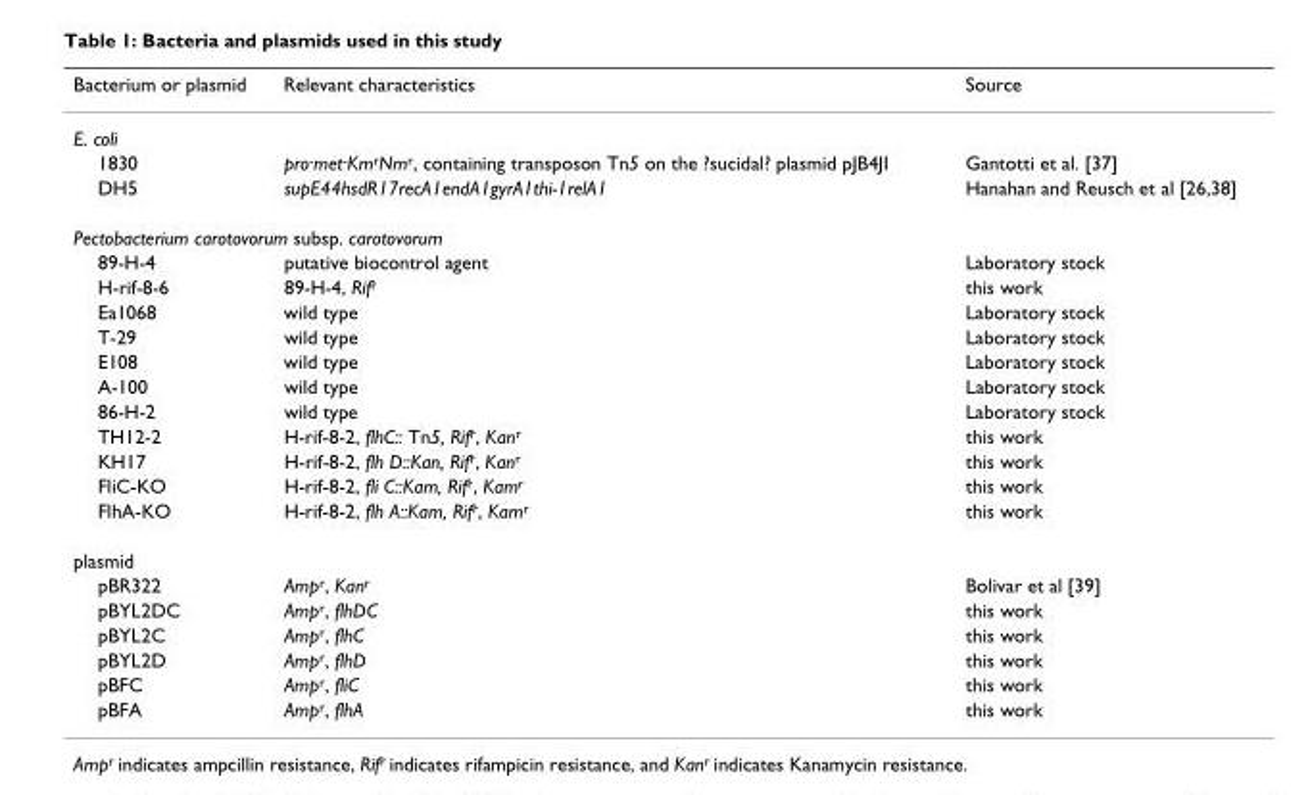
<table><thead><tr><td>Bacterium or plasmid</td><td>Relevant characteristics</td><td>Source</td></tr></thead><tbody><tr><td colspan="3">E. coli</td></tr><tr><td>1830</td><td>pro<sup>-</sup>met<sup>-</sup>Km<sup>r</sup>Nm<sup>r</sup>, containing transposon Tn5 on the ?sucidal? plasmid pJB4JI</td><td>Gantotti et al. [37]</td></tr><tr><td>DH5</td><td>supE44hsdR17recA1endA1gyrA1thi-1relA1</td><td>Hanahan and Reusch et al [26,38]</td></tr><tr><td colspan="3">Pectobacterium carotovorum subsp. carotovorum</td></tr><tr><td>89-H-4</td><td>putative biocontrol agent</td><td>Laboratory stock</td></tr><tr><td>H-rif-8-6</td><td>89-H-4, Rif<sup>r</sup></td><td>this work</td></tr><tr><td>Ea1068</td><td>wild type</td><td>Laboratory stock</td></tr><tr><td>T-29</td><td>wild type</td><td>Laboratory stock</td></tr><tr><td>E108</td><td>wild type</td><td>Laboratory stock</td></tr><tr><td>A-100</td><td>wild type</td><td>Laboratory stock</td></tr><tr><td>86-H-2</td><td>wild type</td><td>Laboratory stock</td></tr><tr><td>TH12-2</td><td>H-rif-8-2, flhC:: Tn5, Rif<sup>r</sup>, Kan<sup>r</sup></td><td>this work</td></tr><tr><td>KH17</td><td>H-rif-8-2, flh D::Kan, Rif<sup>r</sup>, Kan<sup>r</sup></td><td>this work</td></tr><tr><td>FliC-KO</td><td>H-rif-8-2, fli C::Kam, Rif<sup>r</sup>, Kam<sup>r</sup></td><td>this work</td></tr><tr><td>FlhA-KO</td><td>H-rif-8-2, flh A::Kam, Rif<sup>r</sup>, Kam<sup>r</sup></td><td>this work</td></tr><tr><td colspan="3">plasmid</td></tr><tr><td>pBR322</td><td>Amp<sup>r</sup>, Kan<sup>r</sup></td><td>Bolivar et al [39]</td></tr><tr><td>pBYL2DC</td><td>Amp<sup>r</sup>, flhDC</td><td>this work</td></tr><tr><td>pBYL2C</td><td>Amp<sup>r</sup>, flhC</td><td>this work</td></tr><tr><td>pBYL2D</td><td>Amp<sup>r</sup>, flhD</td><td>this work</td></tr><tr><td>pBFC</td><td>Amp<sup>r</sup>, fliC</td><td>this work</td></tr><tr><td>pBFA</td><td>Amp<sup>r</sup>, flhA</td><td>this work</td></tr></tbody></table>